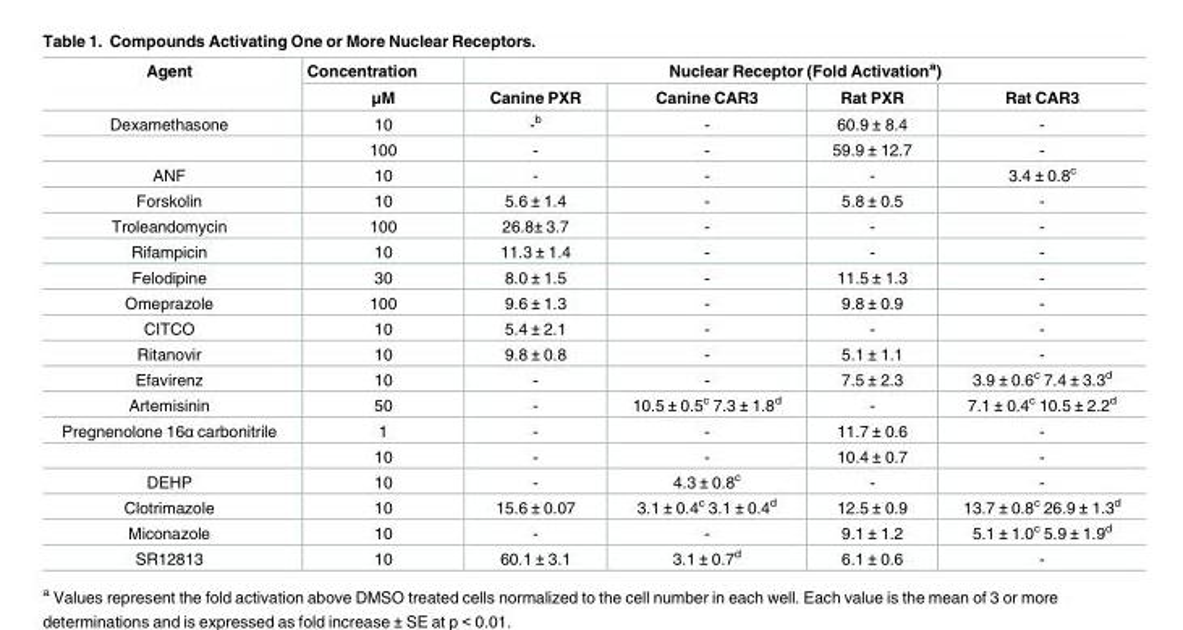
<table><thead><tr><td rowspan="2">Agent</td><td rowspan="2">Concentration μM</td><td colspan="4">Nuclear Receptor (Fold Activation<sup>a</sup>)</td></tr><tr><td>Canine PXR</td><td>Canine CAR3</td><td>Rat PXR</td><td>Rat CAR3</td></tr></thead><tbody><tr><td rowspan="2">Dexamethasone</td><td>10</td><td>-<sup>b</sup></td><td>-</td><td>60.9 ± 8.4</td><td>-</td></tr><tr><td>100</td><td>-</td><td>-</td><td>59.9 ± 12.7</td><td>-</td></tr><tr><td>ANF</td><td>10</td><td>-</td><td>-</td><td>-</td><td>3.4 ± 0.8<sup>c</sup></td></tr><tr><td>Forskolin</td><td>10</td><td>5.6 ± 1.4</td><td>-</td><td>5.8 ± 0.5</td><td>-</td></tr><tr><td>Troleandomycin</td><td>100</td><td>26.8± 3.7</td><td>-</td><td>-</td><td>-</td></tr><tr><td>Rifampicin</td><td>10</td><td>11.3 ± 1.4</td><td>-</td><td>-</td><td>-</td></tr><tr><td>Felodipine</td><td>30</td><td>8.0 ± 1.5</td><td>-</td><td>11.5 ± 1.3</td><td>-</td></tr><tr><td>Omeprazole</td><td>100</td><td>9.6 ± 1.3</td><td>-</td><td>9.8 ± 0.9</td><td>-</td></tr><tr><td>CITCO</td><td>10</td><td>5.4 ± 2.1</td><td>-</td><td>-</td><td>-</td></tr><tr><td>Ritanovir</td><td>10</td><td>9.8 ± 0.8</td><td>-</td><td>5.1 ± 1.1</td><td>-</td></tr><tr><td>Efavirenz</td><td>10</td><td>-</td><td>-</td><td>7.5 ± 2.3</td><td>3.9 ± 0.6<sup>c</sup> 7.4 ± 3.3<sup>d</sup></td></tr><tr><td>Artemisinin</td><td>50</td><td>-</td><td>10.5 ± 0.5<sup>c</sup> 7.3 ± 1.8<sup>d</sup></td><td>-</td><td>7.1 ± 0.4<sup>c</sup> 10.5 ± 2.2<sup>d</sup></td></tr><tr><td rowspan="2">Pregnenolone 16α carbonitrile</td><td>1</td><td>-</td><td>-</td><td>11.7 ± 0.6</td><td>-</td></tr><tr><td>10</td><td>-</td><td>-</td><td>10.4 ± 0.7</td><td>-</td></tr><tr><td>DEHP</td><td>10</td><td>-</td><td>4.3 ± 0.8<sup>c</sup></td><td>-</td><td>-</td></tr><tr><td>Clotrimazole</td><td>10</td><td>15.6 ± 0.07</td><td>3.1 ± 0.4<sup>c</sup> 3.1 ± 0.4<sup>d</sup></td><td>12.5 ± 0.9</td><td>13.7 ± 0.8<sup>c</sup> 26.9 ± 1.3<sup>d</sup></td></tr><tr><td>Miconazole</td><td>10</td><td>-</td><td>-</td><td>9.1 ± 1.2</td><td>5.1 ± 1.0<sup>c</sup> 5.9 ± 1.9<sup>d</sup></td></tr><tr><td>SR12813</td><td>10</td><td>60.1 ± 3.1</td><td>3.1 ± 0.7<sup>d</sup></td><td>6.1 ± 0.6</td><td>-</td></tr></tbody></table>